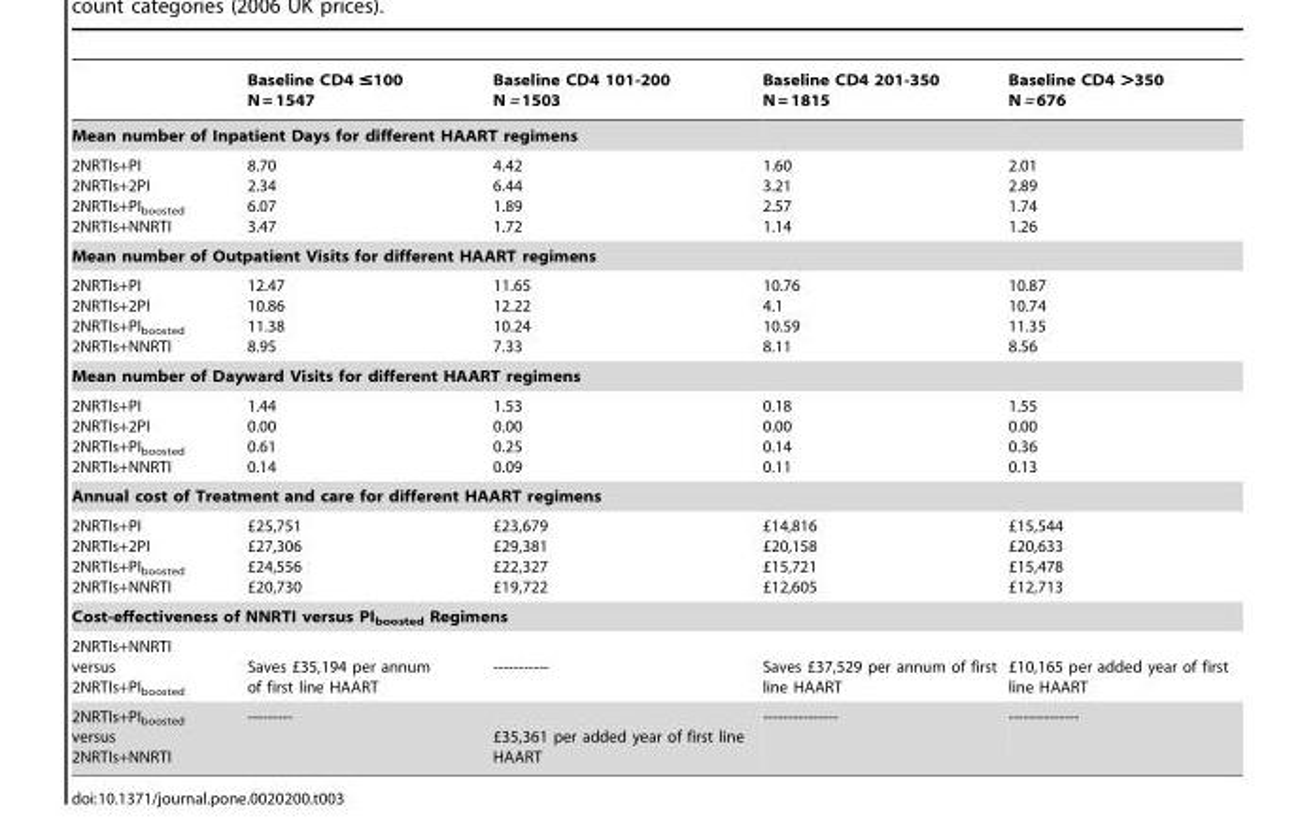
<table><thead><tr><td></td><td>Baseline CD4 ≤100 N = 1547</td><td>Baseline CD4 101-200 N = 1503</td><td>Baseline CD4 201-350 N = 1815</td><td>Baseline CD4 &gt;350 N = 676</td></tr></thead><tbody><tr><td colspan="5">Mean number of Inpatient Days for different HAART regimens</td></tr><tr><td>2NRTIs+PI 2NRTIs+2PI 2NRTIs+PI<sub>boosted</sub> 2NRTIs+NNRTI</td><td>8.70 2.34 6.07 3.47</td><td>4.42 6.44 1.89 1.72</td><td>1.60 3.21 2.57 1.14</td><td>2.01 2.89 1.74 1.26</td></tr><tr><td colspan="5">Mean number of Outpatient Visits for different HAART regimens</td></tr><tr><td>2NRTIs+PI 2NRTIs+2PI 2NRTIs+PI<sub>boosted</sub> 2NRTIs+NNRTI</td><td>12.47 10.86 11.38 8.95</td><td>11.65 12.22 10.24 7.33</td><td>10.76 4.1 10.59 8.11</td><td>10.87 10.74 11.35 8.56</td></tr><tr><td colspan="5">Mean number of Dayward Visits for different HAART regimens</td></tr><tr><td>2NRTIs+PI 2NRTIs+2PI 2NRTIs+PI<sub>boosted</sub> 2NRTIs+NNRTI</td><td>1.44 0.00 0.61 0.14</td><td>1.53 0.00 0.25 0.09</td><td>0.18 0.00 0.14 0.11</td><td>1.55 0.00 0.36 0.13</td></tr><tr><td colspan="5">Annual cost of Treatment and care for different HAART regimens</td></tr><tr><td>2NRTIs+PI 2NRTIs+2PI 2NRTIs+PI<sub>boosted</sub> 2NRTIs+NNRTI</td><td>£25,751 £27,306 £24,556 £20,730</td><td>£23,679 £29,381 £22,327 £19,722</td><td>£14,816 £20,158 £15,721 £12,605</td><td>£15,544 £20,633 £15,478 £12,713</td></tr><tr><td colspan="5">Cost-effectiveness of NNRTI versus PI<sub>boosted</sub> Regimens</td></tr><tr><td>2NRTIs+NNRTI versus 2NRTIs+PI<sub>boosted</sub></td><td>Saves £35,194 per annum of first line HAART</td><td>-----------</td><td>Saves £37,529 per annum of first line HAART</td><td>£10,165 per added year of first line HAART</td></tr><tr><td>2NRTIs+PI<sub>boosted</sub> versus 2NRTIs+NNRTI</td><td>---------</td><td>£35,361 per added year of first line HAART</td><td>---------------</td><td>--------------</td></tr></tbody></table>